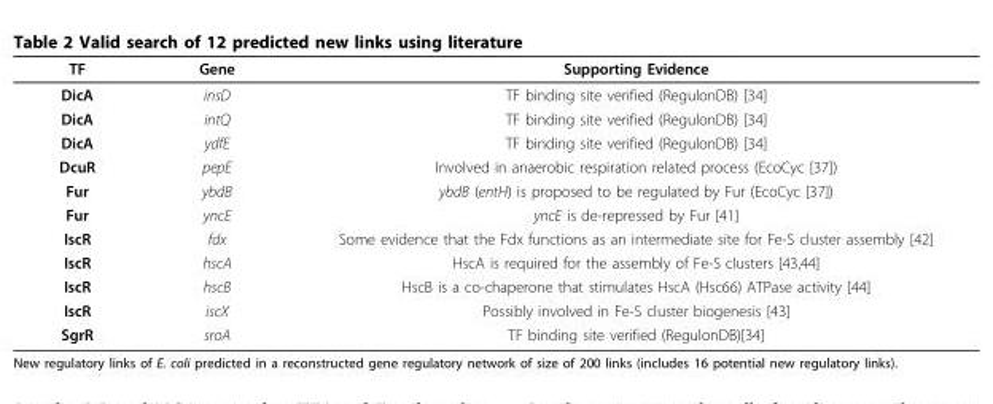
<table><thead><tr><td>TF</td><td>Gene</td><td>Supporting Evidence</td></tr></thead><tbody><tr><td>DicA</td><td>insD</td><td>TF binding site verified (RegulonDB) [34]</td></tr><tr><td>DicA</td><td>intQ</td><td>TF binding site verified (RegulonDB) [34]</td></tr><tr><td>DicA</td><td>ydfE</td><td>TF binding site verified (RegulonDB) [34]</td></tr><tr><td>DcuR</td><td>pepE</td><td>Involved in anaerobic respiration related process (EcoCyc [37])</td></tr><tr><td>Fur</td><td>ybdB</td><td>ybdB (entH) is proposed to be regulated by Fur (EcoCyc [37])</td></tr><tr><td>Fur</td><td>yncE</td><td>yncE is de-repressed by Fur [41]</td></tr><tr><td>IscR</td><td>fdx</td><td>Some evidence that the Fdx functions as an intermediate site for Fe-S cluster assembly [42]</td></tr><tr><td>IscR</td><td>hscA</td><td>HscA is required for the assembly of Fe-S clusters [43,44]</td></tr><tr><td>IscR</td><td>hscB</td><td>HscB is a co-chaperone that stimulates HscA (Hsc66) ATPase activity [44]</td></tr><tr><td>IscR</td><td>iscX</td><td>Possibly involved in Fe-S cluster biogenesis [43]</td></tr><tr><td>SgrR</td><td>sroA</td><td>TF binding site verified (RegulonDB)[34]</td></tr></tbody></table>